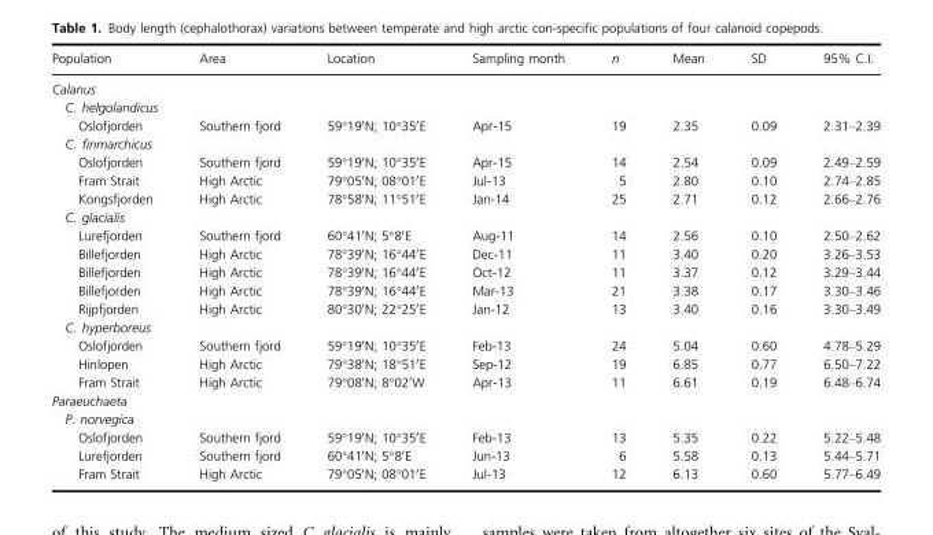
<table><thead><tr><td>Population</td><td>Area</td><td>Location</td><td>Sampling month</td><td>n</td><td>Mean</td><td>SD</td><td>95% C.I.</td></tr></thead><tbody><tr><td colspan="8">Calanus</td></tr><tr><td colspan="8">C. helgolandicus</td></tr><tr><td>Oslofjorden</td><td>Southern fjord</td><td>59°19′N; 10°35′E</td><td>Apr-15</td><td>19</td><td>2.35</td><td>0.09</td><td>2.31–2.39</td></tr><tr><td colspan="8">C. finmarchicus</td></tr><tr><td>Oslofjorden</td><td>Southern fjord</td><td>59°19′N; 10°35′E</td><td>Apr-15</td><td>14</td><td>2.54</td><td>0.09</td><td>2.49–2.59</td></tr><tr><td>Fram Strait</td><td>High Arctic</td><td>79°05′N; 08°01′E</td><td>Jul-13</td><td>5</td><td>2.80</td><td>0.10</td><td>2.74–2.85</td></tr><tr><td>Kongsfjorden</td><td>High Arctic</td><td>78°58′N; 11°51′E</td><td>Jan-14</td><td>25</td><td>2.71</td><td>0.12</td><td>2.66–2.76</td></tr><tr><td colspan="8">C. glacialis</td></tr><tr><td>Lurefjorden</td><td>Southern fjord</td><td>60°41′N; 5°8′E</td><td>Aug-11</td><td>14</td><td>2.56</td><td>0.10</td><td>2.50–2.62</td></tr><tr><td>Billefjorden</td><td>High Arctic</td><td>78°39′N; 16°44′E</td><td>Dec-11</td><td>11</td><td>3.40</td><td>0.20</td><td>3.26–3.53</td></tr><tr><td>Billefjorden</td><td>High Arctic</td><td>78°39′N; 16°44′E</td><td>Oct-12</td><td>11</td><td>3.37</td><td>0.12</td><td>3.29–3.44</td></tr><tr><td>Billefjorden</td><td>High Arctic</td><td>78°39′N; 16°44′E</td><td>Mar-13</td><td>21</td><td>3.38</td><td>0.17</td><td>3.30–3.46</td></tr><tr><td>Rijpfjorden</td><td>High Arctic</td><td>80°30′N; 22°25′E</td><td>Jan-12</td><td>13</td><td>3.40</td><td>0.16</td><td>3.30–3.49</td></tr><tr><td colspan="8">C. hyperboreus</td></tr><tr><td>Oslofjorden</td><td>Southern fjord</td><td>59°19′N; 10°35′E</td><td>Feb-13</td><td>24</td><td>5.04</td><td>0.60</td><td>4.78–5.29</td></tr><tr><td>Hinlopen</td><td>High Arctic</td><td>79°38′N; 18°51′E</td><td>Sep-12</td><td>19</td><td>6.85</td><td>0.77</td><td>6.50–7.22</td></tr><tr><td>Fram Strait</td><td>High Arctic</td><td>79°08′N; 8°02′W</td><td>Apr-13</td><td>11</td><td>6.61</td><td>0.19</td><td>6.48–6.74</td></tr><tr><td colspan="8">Paraeuchaeta</td></tr><tr><td colspan="8">P. norvegica</td></tr><tr><td>Oslofjorden</td><td>Southern fjord</td><td>59°19′N; 10°35′E</td><td>Feb-13</td><td>13</td><td>5.35</td><td>0.22</td><td>5.22–5.48</td></tr><tr><td>Lurefjorden</td><td>Southern fjord</td><td>60°41′N; 5°8′E</td><td>Jun-13</td><td>6</td><td>5.58</td><td>0.13</td><td>5.44–5.71</td></tr><tr><td>Fram Strait</td><td>High Arctic</td><td>79°05′N; 08°01′E</td><td>Jul-13</td><td>12</td><td>6.13</td><td>0.60</td><td>5.77–6.49</td></tr></tbody></table>